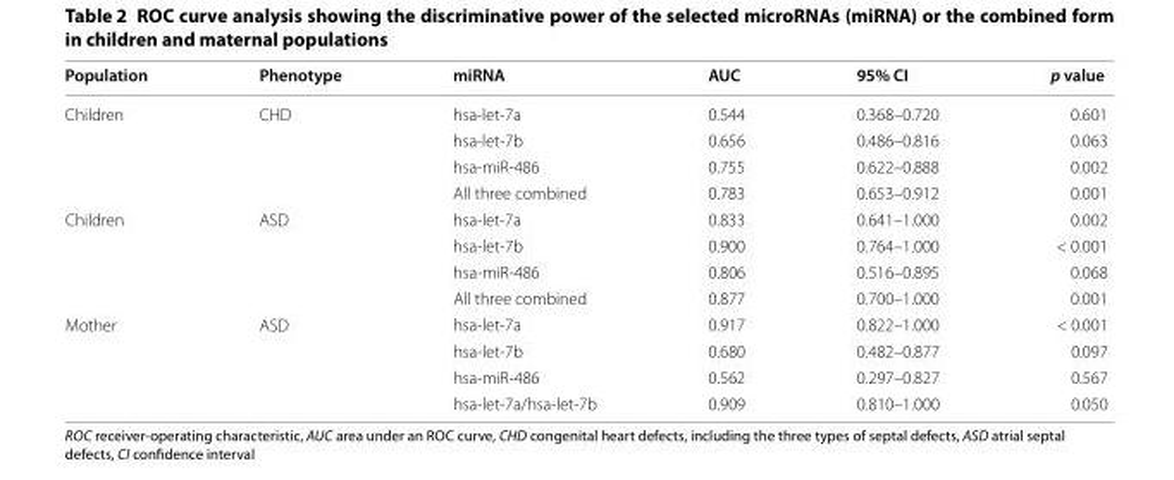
<table><thead><tr><td>Population</td><td>Phenotype</td><td>miRNA</td><td>AUC</td><td>95% CI</td><td>p value</td></tr></thead><tbody><tr><td rowspan="4">Children</td><td rowspan="4">CHD</td><td>hsa-let-7a</td><td>0.544</td><td>0.368–0.720</td><td>0.601</td></tr><tr><td>hsa-let-7b</td><td>0.656</td><td>0.486–0.816</td><td>0.063</td></tr><tr><td>hsa-miR-486</td><td>0.755</td><td>0.622–0.888</td><td>0.002</td></tr><tr><td>All three combined</td><td>0.783</td><td>0.653–0.912</td><td>0.001</td></tr><tr><td rowspan="4">Children</td><td rowspan="4">ASD</td><td>hsa-let-7a</td><td>0.833</td><td>0.641–1.000</td><td>0.002</td></tr><tr><td>hsa-let-7b</td><td>0.900</td><td>0.764–1.000</td><td>&lt; 0.001</td></tr><tr><td>hsa-miR-486</td><td>0.806</td><td>0.516–0.895</td><td>0.068</td></tr><tr><td>All three combined</td><td>0.877</td><td>0.700–1.000</td><td>0.001</td></tr><tr><td rowspan="4">Mother</td><td rowspan="4">ASD</td><td>hsa-let-7a</td><td>0.917</td><td>0.822–1.000</td><td>&lt; 0.001</td></tr><tr><td>hsa-let-7b</td><td>0.680</td><td>0.482–0.877</td><td>0.097</td></tr><tr><td>hsa-miR-486</td><td>0.562</td><td>0.297–0.827</td><td>0.567</td></tr><tr><td>hsa-let-7a/hsa-let-7b</td><td>0.909</td><td>0.810–1.000</td><td>0.050</td></tr></tbody></table>